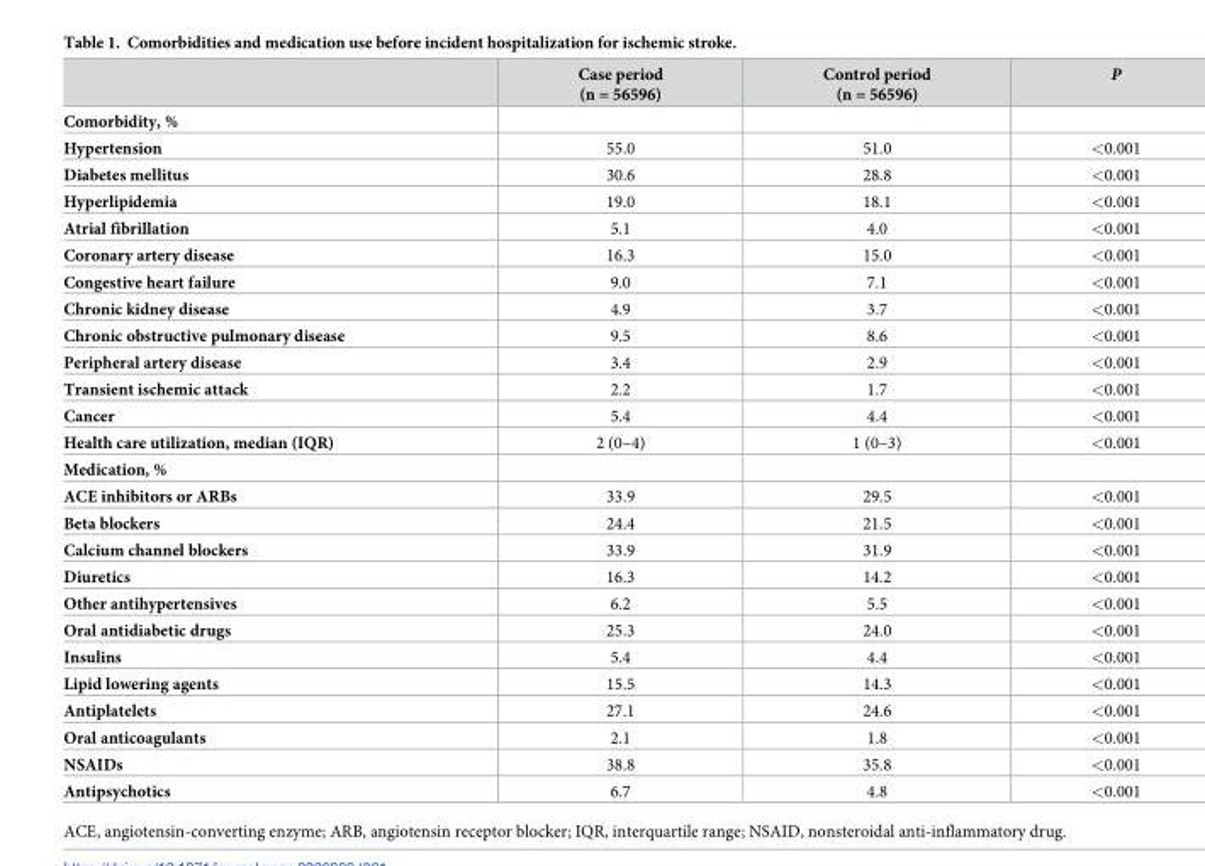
<table><thead><tr><td></td><td>Case period (n = 56596)</td><td>Control period (n = 56596)</td><td>P</td></tr></thead><tbody><tr><td colspan="4">Comorbidity, %</td></tr><tr><td>Hypertension</td><td>55.0</td><td>51.0</td><td>&lt;0.001</td></tr><tr><td>Diabetes mellitus</td><td>30.6</td><td>28.8</td><td>&lt;0.001</td></tr><tr><td>Hyperlipidemia</td><td>19.0</td><td>18.1</td><td>&lt;0.001</td></tr><tr><td>Atrial fibrillation</td><td>5.1</td><td>4.0</td><td>&lt;0.001</td></tr><tr><td>Coronary artery disease</td><td>16.3</td><td>15.0</td><td>&lt;0.001</td></tr><tr><td>Congestive heart failure</td><td>9.0</td><td>7.1</td><td>&lt;0.001</td></tr><tr><td>Chronic kidney disease</td><td>4.9</td><td>3.7</td><td>&lt;0.001</td></tr><tr><td>Chronic obstructive pulmonary disease</td><td>9.5</td><td>8.6</td><td>&lt;0.001</td></tr><tr><td>Peripheral artery disease</td><td>3.4</td><td>2.9</td><td>&lt;0.001</td></tr><tr><td>Transient ischemic attack</td><td>2.2</td><td>1.7</td><td>&lt;0.001</td></tr><tr><td>Cancer</td><td>5.4</td><td>4.4</td><td>&lt;0.001</td></tr><tr><td>Health care utilization, median (IQR)</td><td>2 (0–4)</td><td>1 (0–3)</td><td>&lt;0.001</td></tr><tr><td colspan="4">Medication, %</td></tr><tr><td>ACE inhibitors or ARBs</td><td>33.9</td><td>29.5</td><td>&lt;0.001</td></tr><tr><td>Beta blockers</td><td>24.4</td><td>21.5</td><td>&lt;0.001</td></tr><tr><td>Calcium channel blockers</td><td>33.9</td><td>31.9</td><td>&lt;0.001</td></tr><tr><td>Diuretics</td><td>16.3</td><td>14.2</td><td>&lt;0.001</td></tr><tr><td>Other antihypertensives</td><td>6.2</td><td>5.5</td><td>&lt;0.001</td></tr><tr><td>Oral antidiabetic drugs</td><td>25.3</td><td>24.0</td><td>&lt;0.001</td></tr><tr><td>Insulins</td><td>5.4</td><td>4.4</td><td>&lt;0.001</td></tr><tr><td>Lipid lowering agents</td><td>15.5</td><td>14.3</td><td>&lt;0.001</td></tr><tr><td>Antiplatelets</td><td>27.1</td><td>24.6</td><td>&lt;0.001</td></tr><tr><td>Oral anticoagulants</td><td>2.1</td><td>1.8</td><td>&lt;0.001</td></tr><tr><td>NSAIDs</td><td>38.8</td><td>35.8</td><td>&lt;0.001</td></tr><tr><td>Antipsychotics</td><td>6.7</td><td>4.8</td><td>&lt;0.001</td></tr></tbody></table>